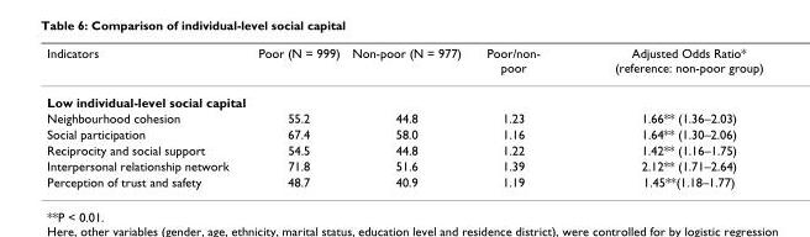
<table><thead><tr><td>Indicators</td><td>Poor (N = 999)</td><td>Non-poor (N = 977)</td><td>Poor/non- poor</td><td>Adjusted Odds Ratio* (reference: non-poor group)</td></tr></thead><tbody><tr><td colspan="5">Low individual-level social capital</td></tr><tr><td>Neighbourhood cohesion</td><td>55.2</td><td>44.8</td><td>1.23</td><td>1.66** (1.36–2.03)</td></tr><tr><td>Social participation</td><td>67.4</td><td>58.0</td><td>1.16</td><td>1.64** (1.30–2.06)</td></tr><tr><td>Reciprocity and social support</td><td>54.5</td><td>44.8</td><td>1.22</td><td>1.42** (1.16–1.75)</td></tr><tr><td>Interpersonal relationship network</td><td>71.8</td><td>51.6</td><td>1.39</td><td>2.12** (1.71–2.64)</td></tr><tr><td>Perception of trust and safety</td><td>48.7</td><td>40.9</td><td>1.19</td><td>1.45**(1.18–1.77)</td></tr></tbody></table>